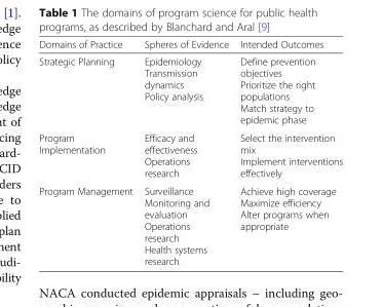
<table><thead><tr><td>Domains of Practice</td><td>Spheres of Evidence</td><td>Intended Outcomes</td></tr></thead><tbody><tr><td>Strategic Planning</td><td>Epidemiology Transmission dynamics Policy analysis</td><td>Define prevention objectives Prioritize the right populations Match strategy to epidemic phase</td></tr><tr><td>Program Implementation</td><td>Efficacy and effectiveness Operations research</td><td>Select the intervention mix Implement interventions effectively</td></tr><tr><td>Program Management</td><td>Surveillance Monitoring and evaluation Operations research Health systems research</td><td>Achieve high coverage Maximize efficiency Alter programs when appropriate</td></tr></tbody></table>